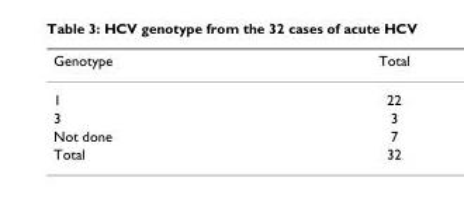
<table><thead><tr><td>Genotype</td><td>Total</td></tr></thead><tbody><tr><td>1</td><td>22</td></tr><tr><td>3</td><td>3</td></tr><tr><td>Not done</td><td>7</td></tr><tr><td>Total</td><td>32</td></tr></tbody></table>